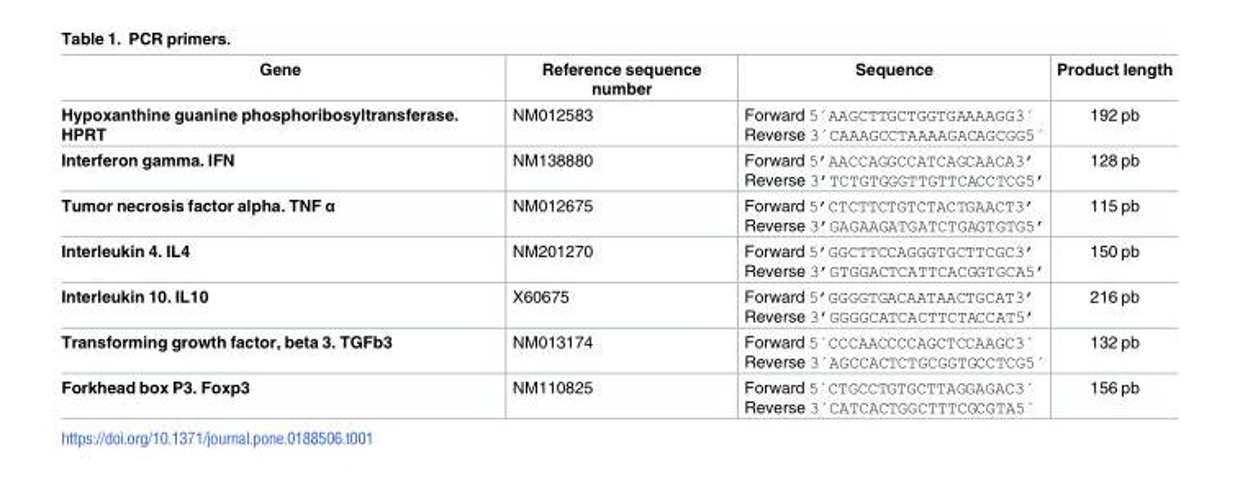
<table><thead><tr><td>Gene</td><td>Reference sequence number</td><td>Sequence</td><td>Product length</td></tr></thead><tbody><tr><td>Hypoxanthine guanine phosphoribosyltransferase. HPRT</td><td>NM012583</td><td>Forward 5´AAGCTTGCTGGTGAAAAGG3´ Reverse 3´CAAAGCCTAAAAGACAGCGG5´</td><td>192 pb</td></tr><tr><td>Interferon gamma. IFN</td><td>NM138880</td><td>Forward 5’AACCAGGCCATCAGCAACA3’ Reverse 3’TCTGTGGGTTGTTCACCTCG5’</td><td>128 pb</td></tr><tr><td>Tumor necrosis factor alpha. TNF α</td><td>NM012675</td><td>Forward 5’CTCTTCTGTCTACTGAACT3’ Reverse 3’GAGAAGATGATCTGAGTGTG5’</td><td>115 pb</td></tr><tr><td>Interleukin 4. IL4</td><td>NM201270</td><td>Forward 5’GGCTTCCAGGGTGCTTCGC3’ Reverse 3’GTGGACTCATTCACGGTGCA5’</td><td>150 pb</td></tr><tr><td>Interleukin 10. IL10</td><td>X60675</td><td>Forward 5’GGGGTGACAATAACTGCAT3’ Reverse 3’GGGGCATCACTTCTACCAT5’</td><td>216 pb</td></tr><tr><td>Transforming growth factor, beta 3. TGFb3</td><td>NM013174</td><td>Forward 5´CCCAACCCCAGCTCCAAGC3´ Reverse 3´AGCCACTCTGCGGTGCCTCG5´</td><td>132 pb</td></tr><tr><td>Forkhead box P3. Foxp3</td><td>NM110825</td><td>Forward 5´CTGCCTGTGCTTAGGAGAC3´ Reverse 3´CATCACTGGCTTTCGCGTA5´</td><td>156 pb</td></tr></tbody></table>